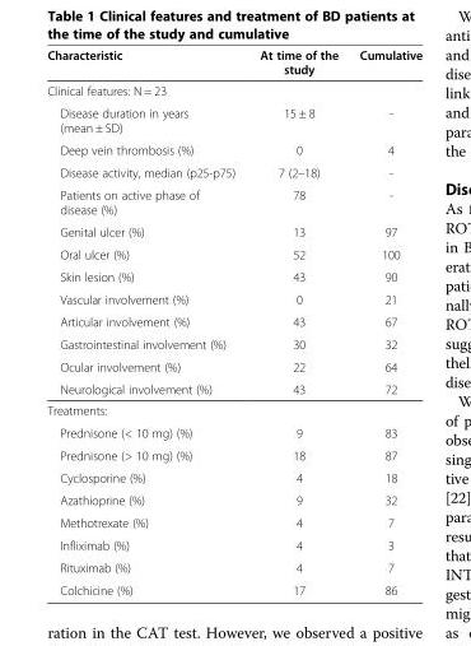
<table><thead><tr><td>Characteristic</td><td>At time of the study</td><td>Cumulative</td></tr></thead><tbody><tr><td colspan="3">Clinical features: N = 23</td></tr><tr><td>Disease duration in years (mean ± SD)</td><td>15 ± 8</td><td>-</td></tr><tr><td>Deep vein thrombosis (%)</td><td>0</td><td>4</td></tr><tr><td>Disease activity, median (p25-p75)</td><td>7 (2–18)</td><td>-</td></tr><tr><td>Patients on active phase of disease (%)</td><td>78</td><td>-</td></tr><tr><td>Genital ulcer (%)</td><td>13</td><td>97</td></tr><tr><td>Oral ulcer (%)</td><td>52</td><td>100</td></tr><tr><td>Skin lesion (%)</td><td>43</td><td>90</td></tr><tr><td>Vascular involvement (%)</td><td>0</td><td>21</td></tr><tr><td>Articular involvement (%)</td><td>43</td><td>67</td></tr><tr><td>Gastrointestinal involvement (%)</td><td>30</td><td>32</td></tr><tr><td>Ocular involvement (%)</td><td>22</td><td>64</td></tr><tr><td>Neurological involvement (%)</td><td>43</td><td>72</td></tr><tr><td colspan="3">Treatments:</td></tr><tr><td>Prednisone (&lt; 10 mg) (%)</td><td>9</td><td>83</td></tr><tr><td>Prednisone (&gt; 10 mg) (%)</td><td>18</td><td>87</td></tr><tr><td>Cyclosporine (%)</td><td>4</td><td>18</td></tr><tr><td>Azathioprine (%)</td><td>9</td><td>32</td></tr><tr><td>Methotrexate (%)</td><td>4</td><td>7</td></tr><tr><td>Infliximab (%)</td><td>4</td><td>3</td></tr><tr><td>Rituximab (%)</td><td>4</td><td>7</td></tr><tr><td>Colchicine (%)</td><td>17</td><td>86</td></tr></tbody></table>